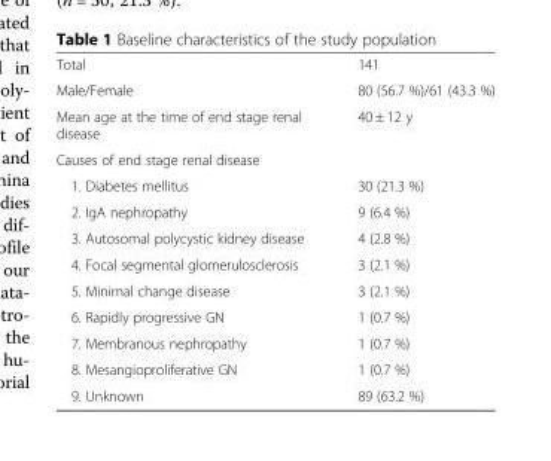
<table><tbody><tr><td>Total</td><td>141</td></tr><tr><td>Male/Female</td><td>80 (56.7 %)/61 (43.3 %)</td></tr><tr><td>Mean age at the time of end stage renal disease</td><td>40 ± 12 y</td></tr><tr><td colspan="2">Causes of end stage renal disease</td></tr><tr><td>1. Diabetes mellitus</td><td>30 (21.3 %)</td></tr><tr><td>2. IgA nephropathy</td><td>9 (6.4 %)</td></tr><tr><td>3. Autosomal polycystic kidney disease</td><td>4 (2.8 %)</td></tr><tr><td>4. Focal segmental glomerulosclerosis</td><td>3 (2.1 %)</td></tr><tr><td>5. Minimal change disease</td><td>3 (2.1 %)</td></tr><tr><td>6. Rapidly progressive GN</td><td>1 (0.7 %)</td></tr><tr><td>7. Membranous nephropathy</td><td>1 (0.7 %)</td></tr><tr><td>8. Mesangioproliferative GN</td><td>1 (0.7 %)</td></tr><tr><td>9. Unknown</td><td>89 (63.2 %)</td></tr></tbody></table>